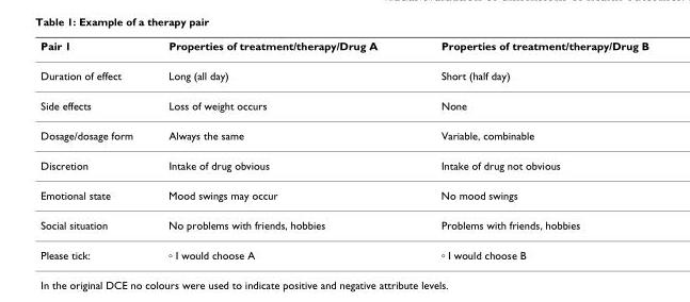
<table><thead><tr><td>Pair 1</td><td>Properties of treatment/therapy/Drug A</td><td>Properties of treatment/therapy/Drug B</td></tr></thead><tbody><tr><td>Duration of effect</td><td>Long (all day)</td><td>Short (half day)</td></tr><tr><td>Side effects</td><td>Loss of weight occurs</td><td>None</td></tr><tr><td>Dosage/dosage form</td><td>Always the same</td><td>Variable, combinable</td></tr><tr><td>Discretion</td><td>Intake of drug obvious</td><td>Intake of drug not obvious</td></tr><tr><td>Emotional state</td><td>Mood swings may occur</td><td>No mood swings</td></tr><tr><td>Social situation</td><td>No problems with friends, hobbies</td><td>Problems with friends, hobbies</td></tr><tr><td>Please tick:</td><td>∘ I would choose A</td><td>∘ I would choose B</td></tr></tbody></table>